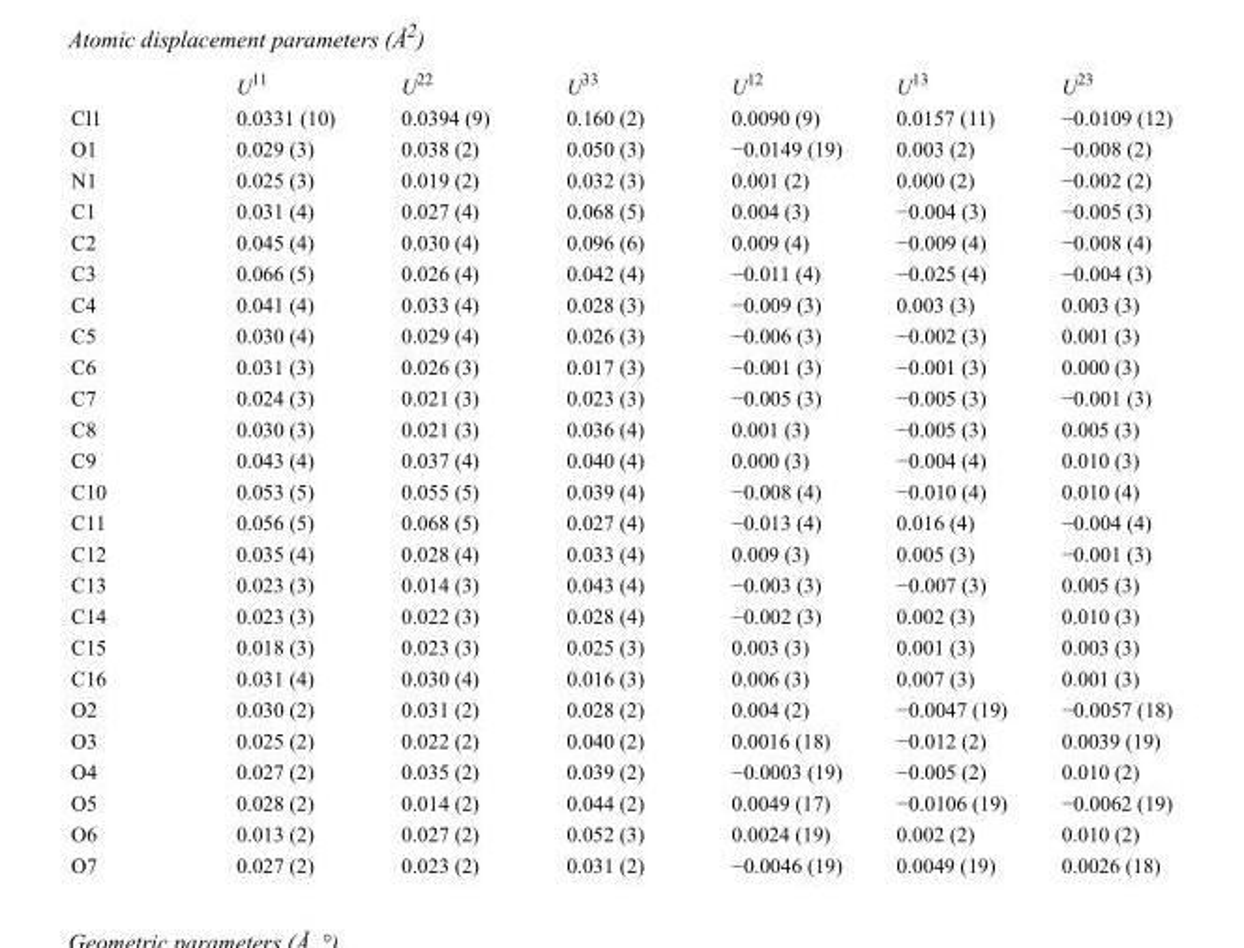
<table><thead><tr><td></td><td>U<sup>11</sup></td><td>U<sup>22</sup></td><td>U<sup>33</sup></td><td>U<sup>12</sup></td><td>U<sup>13</sup></td><td>U<sup>23</sup></td></tr></thead><tbody><tr><td>Cl1</td><td>0.0331 (10)</td><td>0.0394 (9)</td><td>0.160 (2)</td><td>0.0090 (9)</td><td>0.0157 (11)</td><td>−0.0109 (12)</td></tr><tr><td>O1</td><td>0.029 (3)</td><td>0.038 (2)</td><td>0.050 (3)</td><td>−0.0149 (19)</td><td>0.003 (2)</td><td>−0.008 (2)</td></tr><tr><td>N1</td><td>0.025 (3)</td><td>0.019 (2)</td><td>0.032 (3)</td><td>0.001 (2)</td><td>0.000 (2)</td><td>−0.002 (2)</td></tr><tr><td>C1</td><td>0.031 (4)</td><td>0.027 (4)</td><td>0.068 (5)</td><td>0.004 (3)</td><td>−0.004 (3)</td><td>−0.005 (3)</td></tr><tr><td>C2</td><td>0.045 (4)</td><td>0.030 (4)</td><td>0.096 (6)</td><td>0.009 (4)</td><td>−0.009 (4)</td><td>−0.008 (4)</td></tr><tr><td>C3</td><td>0.066 (5)</td><td>0.026 (4)</td><td>0.042 (4)</td><td>−0.011 (4)</td><td>−0.025 (4)</td><td>−0.004 (3)</td></tr><tr><td>C4</td><td>0.041 (4)</td><td>0.033 (4)</td><td>0.028 (3)</td><td>−0.009 (3)</td><td>0.003 (3)</td><td>0.003 (3)</td></tr><tr><td>C5</td><td>0.030 (4)</td><td>0.029 (4)</td><td>0.026 (3)</td><td>−0.006 (3)</td><td>−0.002 (3)</td><td>0.001 (3)</td></tr><tr><td>C6</td><td>0.031 (3)</td><td>0.026 (3)</td><td>0.017 (3)</td><td>−0.001 (3)</td><td>−0.001 (3)</td><td>0.000 (3)</td></tr><tr><td>C7</td><td>0.024 (3)</td><td>0.021 (3)</td><td>0.023 (3)</td><td>−0.005 (3)</td><td>−0.005 (3)</td><td>−0.001 (3)</td></tr><tr><td>C8</td><td>0.030 (3)</td><td>0.021 (3)</td><td>0.036 (4)</td><td>0.001 (3)</td><td>−0.005 (3)</td><td>0.005 (3)</td></tr><tr><td>C9</td><td>0.043 (4)</td><td>0.037 (4)</td><td>0.040 (4)</td><td>0.000 (3)</td><td>−0.004 (4)</td><td>0.010 (3)</td></tr><tr><td>C10</td><td>0.053 (5)</td><td>0.055 (5)</td><td>0.039 (4)</td><td>−0.008 (4)</td><td>−0.010 (4)</td><td>0.010 (4)</td></tr><tr><td>C11</td><td>0.056 (5)</td><td>0.068 (5)</td><td>0.027 (4)</td><td>−0.013 (4)</td><td>0.016 (4)</td><td>−0.004 (4)</td></tr><tr><td>C12</td><td>0.035 (4)</td><td>0.028 (4)</td><td>0.033 (4)</td><td>0.009 (3)</td><td>0.005 (3)</td><td>−0.001 (3)</td></tr><tr><td>C13</td><td>0.023 (3)</td><td>0.014 (3)</td><td>0.043 (4)</td><td>−0.003 (3)</td><td>−0.007 (3)</td><td>0.005 (3)</td></tr><tr><td>C14</td><td>0.023 (3)</td><td>0.022 (3)</td><td>0.028 (4)</td><td>−0.002 (3)</td><td>0.002 (3)</td><td>0.010 (3)</td></tr><tr><td>C15</td><td>0.018 (3)</td><td>0.023 (3)</td><td>0.025 (3)</td><td>0.003 (3)</td><td>0.001 (3)</td><td>0.003 (3)</td></tr><tr><td>C16</td><td>0.031 (4)</td><td>0.030 (4)</td><td>0.016 (3)</td><td>0.006 (3)</td><td>0.007 (3)</td><td>0.001 (3)</td></tr><tr><td>O2</td><td>0.030 (2)</td><td>0.031 (2)</td><td>0.028 (2)</td><td>0.004 (2)</td><td>−0.0047 (19)</td><td>−0.0057 (18)</td></tr><tr><td>O3</td><td>0.025 (2)</td><td>0.022 (2)</td><td>0.040 (2)</td><td>0.0016 (18)</td><td>−0.012 (2)</td><td>0.0039 (19)</td></tr><tr><td>O4</td><td>0.027 (2)</td><td>0.035 (2)</td><td>0.039 (2)</td><td>−0.0003 (19)</td><td>−0.005 (2)</td><td>0.010 (2)</td></tr><tr><td>O5</td><td>0.028 (2)</td><td>0.014 (2)</td><td>0.044 (2)</td><td>0.0049 (17)</td><td>−0.0106 (19)</td><td>−0.0062 (19)</td></tr><tr><td>O6</td><td>0.013 (2)</td><td>0.027 (2)</td><td>0.052 (3)</td><td>0.0024 (19)</td><td>0.002 (2)</td><td>0.010 (2)</td></tr><tr><td>O7</td><td>0.027 (2)</td><td>0.023 (2)</td><td>0.031 (2)</td><td>−0.0046 (19)</td><td>0.0049 (19)</td><td>0.0026 (18)</td></tr></tbody></table>